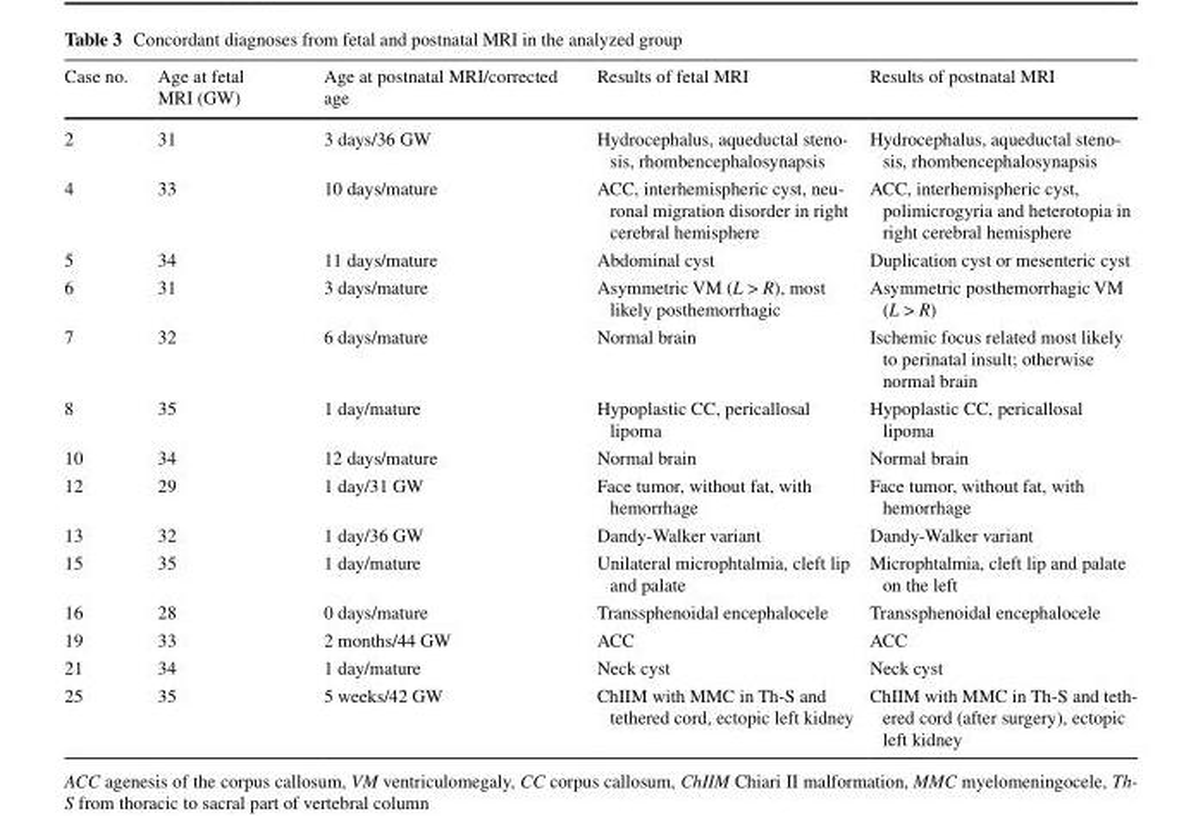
<table><thead><tr><td>Case no.</td><td>Age at fetal MRI (GW)</td><td>Age at postnatal MRI/corrected age</td><td>Results of fetal MRI</td><td>Results of postnatal MRI</td></tr></thead><tbody><tr><td>2</td><td>31</td><td>3 days/36 GW</td><td>Hydrocephalus, aqueductal steno- sis, rhombencephalosynapsis</td><td>Hydrocephalus, aqueductal steno- sis, rhombencephalosynapsis</td></tr><tr><td>4</td><td>33</td><td>10 days/mature</td><td>ACC, interhemispheric cyst, neu- ronal migration disorder in right cerebral hemisphere</td><td>ACC, interhemispheric cyst, polimicrogyria and heterotopia in right cerebral hemisphere</td></tr><tr><td>5</td><td>34</td><td>11 days/mature</td><td>Abdominal cyst</td><td>Duplication cyst or mesenteric cyst</td></tr><tr><td>6</td><td>31</td><td>3 days/mature</td><td>Asymmetric VM (L &gt; R), most likely posthemorrhagic</td><td>Asymmetric posthemorrhagic VM (L &gt; R)</td></tr><tr><td>7</td><td>32</td><td>6 days/mature</td><td>Normal brain</td><td>Ischemic focus related most likely to perinatal insult; otherwise normal brain</td></tr><tr><td>8</td><td>35</td><td>1 day/mature</td><td>Hypoplastic CC, pericallosal lipoma</td><td>Hypoplastic CC, pericallosal lipoma</td></tr><tr><td>10</td><td>34</td><td>12 days/mature</td><td>Normal brain</td><td>Normal brain</td></tr><tr><td>12</td><td>29</td><td>1 day/31 GW</td><td>Face tumor, without fat, with hemorrhage</td><td>Face tumor, without fat, with hemorrhage</td></tr><tr><td>13</td><td>32</td><td>1 day/36 GW</td><td>Dandy-Walker variant</td><td>Dandy-Walker variant</td></tr><tr><td>15</td><td>35</td><td>1 day/mature</td><td>Unilateral microphtalmia, cleft lip and palate</td><td>Microphtalmia, cleft lip and palate on the left</td></tr><tr><td>16</td><td>28</td><td>0 days/mature</td><td>Transsphenoidal encephalocele</td><td>Transsphenoidal encephalocele</td></tr><tr><td>19</td><td>33</td><td>2 months/44 GW</td><td>ACC</td><td>ACC</td></tr><tr><td>21</td><td>34</td><td>1 day/mature</td><td>Neck cyst</td><td>Neck cyst</td></tr><tr><td>25</td><td>35</td><td>5 weeks/42 GW</td><td>ChIIM with MMC in Th-S and tethered cord, ectopic left kidney</td><td>ChIIM with MMC in Th-S and teth- ered cord (after surgery), ectopic left kidney</td></tr></tbody></table>